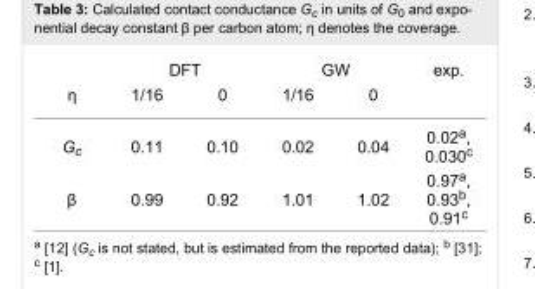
<table><thead><tr><td rowspan="2">η</td><td colspan="2">DFT</td><td colspan="2">GW</td><td rowspan="2">exp.</td></tr><tr><td>1/16</td><td>0</td><td>1/16</td><td>0</td></tr></thead><tbody><tr><td>G<sub>c</sub></td><td>0.11</td><td>0.10</td><td>0.02</td><td>0.04</td><td>0.02<sup>a</sup>, 0.030<sup>c</sup></td></tr><tr><td>β</td><td>0.99</td><td>0.92</td><td>1.01</td><td>1.02</td><td>0.97<sup>a</sup>, 0.93<sup>b</sup>, 0.91<sup>c</sup></td></tr></tbody></table>